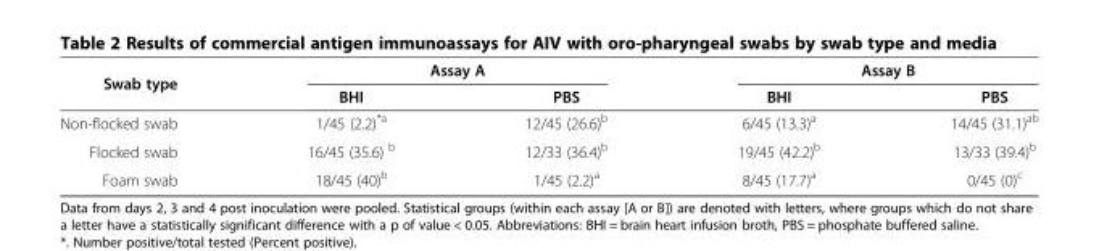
<table><thead><tr><td rowspan="2">Swab type</td><td colspan="2">Assay A</td><td colspan="2">Assay B</td></tr><tr><td>BHI</td><td>PBS</td><td>BHI</td><td>PBS</td></tr></thead><tbody><tr><td>Non-flocked swab</td><td>1/45 (2.2)<sup>*a</sup></td><td>12/45 (26.6)<sup>b</sup></td><td>6/45 (13.3)<sup>a</sup></td><td>14/45 (31.1)<sup>ab</sup></td></tr><tr><td>Flocked swab</td><td>16/45 (35.6) <sup>b</sup></td><td>12/33 (36.4)<sup>b</sup></td><td>19/45 (42.2)<sup>b</sup></td><td>13/33 (39.4)<sup>b</sup></td></tr><tr><td>Foam swab</td><td>18/45 (40)<sup>b</sup></td><td>1/45 (2.2)<sup>a</sup></td><td>8/45 (17.7)<sup>a</sup></td><td>0/45 (0)<sup>c</sup></td></tr></tbody></table>